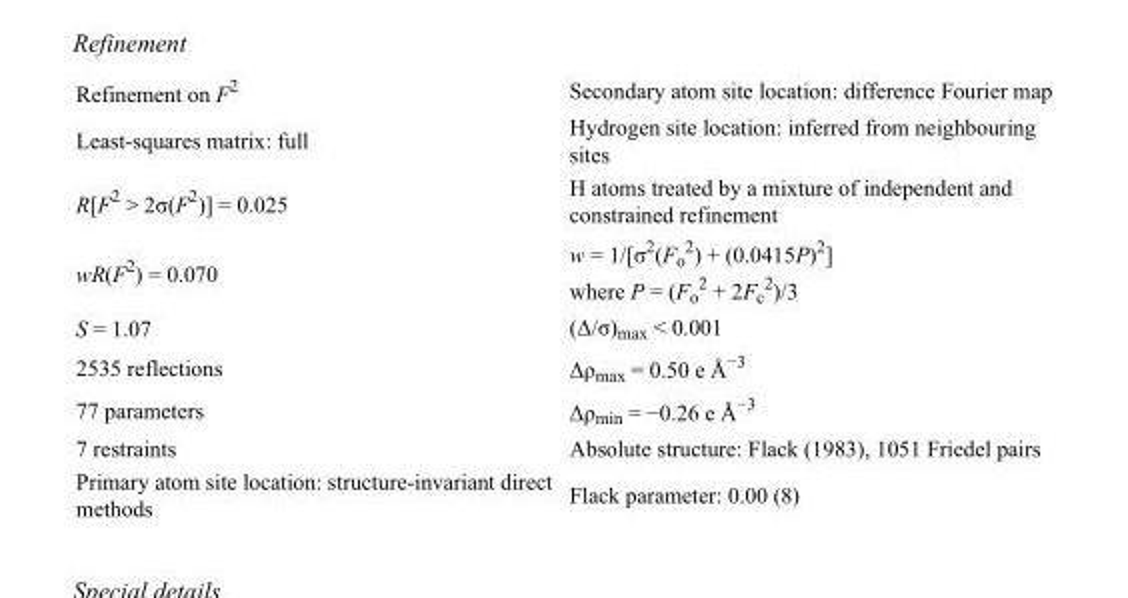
<table><tbody><tr><td>Refinement on F<sup>2</sup></td><td>Secondary atom site location: difference Fourier map</td></tr><tr><td>Least-squares matrix: full</td><td>Hydrogen site location: inferred from neighbouring sites</td></tr><tr><td>R[F<sup>2</sup> &gt; 2σ(F<sup>2</sup>)] = 0.025</td><td>H atoms treated by a mixture of independent and constrained refinement</td></tr><tr><td>wR(F<sup>2</sup>) = 0.070</td><td>w = 1/[σ<sup>2</sup>(F<sub>o</sub> <sup>2</sup>) + (0.0415P)<sup>2</sup>] where P = (F<sub>o</sub> <sup>2</sup> + 2F<sub>c</sub> <sup>2</sup>)/3</td></tr><tr><td>S = 1.07</td><td>(Δ/σ)<sub>max</sub> &lt; 0.001</td></tr><tr><td>2535 reflections</td><td>Δρ<sub>max</sub> = 0.50 e Å<sup>−3</sup></td></tr><tr><td>77 parameters</td><td>Δρ<sub>min</sub> = −0.26 e Å<sup>−3</sup></td></tr><tr><td>7 restraints</td><td>Absolute structure: Flack (1983), 1051 Friedel pairs</td></tr><tr><td>Primary atom site location: structure-invariant direct methods</td><td>Flack parameter: 0.00 (8)</td></tr></tbody></table>